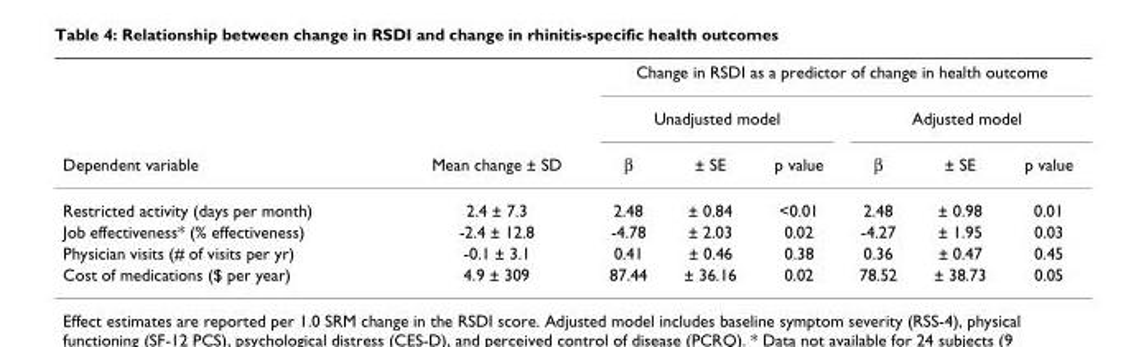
<table><thead><tr><td rowspan="3">Dependent variable</td><td rowspan="3">Mean change ± SD</td><td colspan="6">Change in RSDI as a predictor of change in health outcome</td></tr><tr><td colspan="3">Unadjusted model</td><td colspan="3">Adjusted model</td></tr><tr><td>β</td><td>± SE</td><td>p value</td><td>β</td><td>± SE</td><td>p value</td></tr></thead><tbody><tr><td>Restricted activity (days per month)</td><td>2.4 ± 7.3</td><td>2.48</td><td>± 0.84</td><td>&lt;0.01</td><td>2.48</td><td>± 0.98</td><td>0.01</td></tr><tr><td>Job effectiveness* (% effectiveness)</td><td>-2.4 ± 12.8</td><td>-4.78</td><td>± 2.03</td><td>0.02</td><td>-4.27</td><td>± 1.95</td><td>0.03</td></tr><tr><td>Physician visits (# of visits per yr)</td><td>-0.1 ± 3.1</td><td>0.41</td><td>± 0.46</td><td>0.38</td><td>0.36</td><td>± 0.47</td><td>0.45</td></tr><tr><td>Cost of medications ($ per year)</td><td>4.9 ± 309</td><td>87.44</td><td>± 36.16</td><td>0.02</td><td>78.52</td><td>± 38.73</td><td>0.05</td></tr></tbody></table>